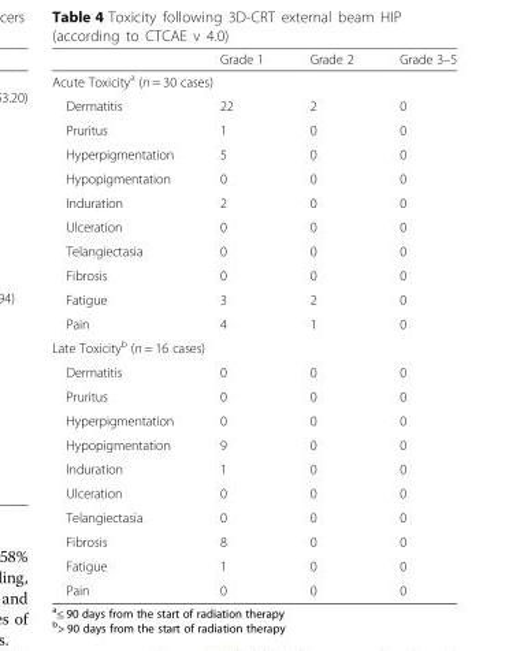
<table><thead><tr><td></td><td>Grade 1</td><td>Grade 2</td><td>Grade 3–5</td></tr></thead><tbody><tr><td colspan="4">Acute Toxicity<sup>a</sup> (n = 30 cases)</td></tr><tr><td>Dermatitis</td><td>22</td><td>2</td><td>0</td></tr><tr><td>Pruritus</td><td>1</td><td>0</td><td>0</td></tr><tr><td>Hyperpigmentation</td><td>5</td><td>0</td><td>0</td></tr><tr><td>Hypopigmentation</td><td>0</td><td>0</td><td>0</td></tr><tr><td>Induration</td><td>2</td><td>0</td><td>0</td></tr><tr><td>Ulceration</td><td>0</td><td>0</td><td>0</td></tr><tr><td>Telangiectasia</td><td>0</td><td>0</td><td>0</td></tr><tr><td>Fibrosis</td><td>0</td><td>0</td><td>0</td></tr><tr><td>Fatigue</td><td>3</td><td>2</td><td>0</td></tr><tr><td>Pain</td><td>4</td><td>1</td><td>0</td></tr><tr><td colspan="4">Late Toxicity<sup>b</sup> (n = 16 cases)</td></tr><tr><td>Dermatitis</td><td>0</td><td>0</td><td>0</td></tr><tr><td>Pruritus</td><td>0</td><td>0</td><td>0</td></tr><tr><td>Hyperpigmentation</td><td>0</td><td>0</td><td>0</td></tr><tr><td>Hypopigmentation</td><td>9</td><td>0</td><td>0</td></tr><tr><td>Induration</td><td>1</td><td>0</td><td>0</td></tr><tr><td>Ulceration</td><td>0</td><td>0</td><td>0</td></tr><tr><td>Telangiectasia</td><td>0</td><td>0</td><td>0</td></tr><tr><td>Fibrosis</td><td>8</td><td>0</td><td>0</td></tr><tr><td>Fatigue</td><td>1</td><td>0</td><td>0</td></tr><tr><td>Pain</td><td>0</td><td>0</td><td>0</td></tr></tbody></table>